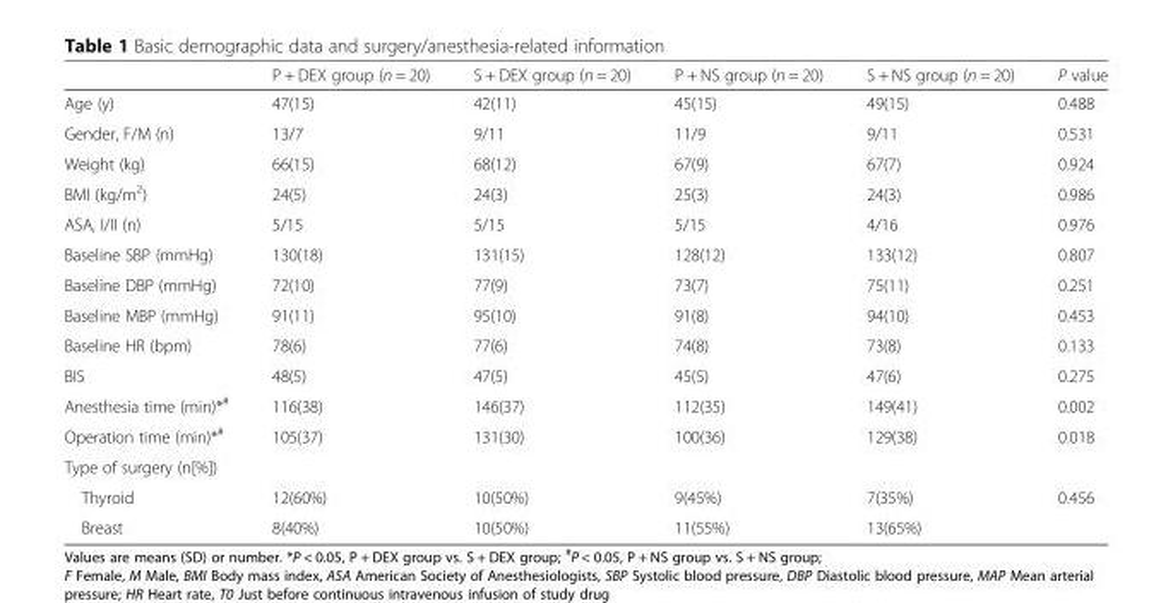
<table><thead><tr><td></td><td>P + DEX group (n = 20)</td><td>S + DEX group (n = 20)</td><td>P + NS group (n = 20)</td><td>S + NS group (n = 20)</td><td>P value</td></tr></thead><tbody><tr><td>Age (y)</td><td>47(15)</td><td>42(11)</td><td>45(15)</td><td>49(15)</td><td>0.488</td></tr><tr><td>Gender, F/M (n)</td><td>13/7</td><td>9/11</td><td>11/9</td><td>9/11</td><td>0.531</td></tr><tr><td>Weight (kg)</td><td>66(15)</td><td>68(12)</td><td>67(9)</td><td>67(7)</td><td>0.924</td></tr><tr><td>BMI (kg/m<sup>2</sup>)</td><td>24(5)</td><td>24(3)</td><td>25(3)</td><td>24(3)</td><td>0.986</td></tr><tr><td>ASA, I/II (n)</td><td>5/15</td><td>5/15</td><td>5/15</td><td>4/16</td><td>0.976</td></tr><tr><td>Baseline SBP (mmHg)</td><td>130(18)</td><td>131(15)</td><td>128(12)</td><td>133(12)</td><td>0.807</td></tr><tr><td>Baseline DBP (mmHg)</td><td>72(10)</td><td>77(9)</td><td>73(7)</td><td>75(11)</td><td>0.251</td></tr><tr><td>Baseline MBP (mmHg)</td><td>91(11)</td><td>95(10)</td><td>91(8)</td><td>94(10)</td><td>0.453</td></tr><tr><td>Baseline HR (bpm)</td><td>78(6)</td><td>77(6)</td><td>74(8)</td><td>73(8)</td><td>0.133</td></tr><tr><td>BIS</td><td>48(5)</td><td>47(5)</td><td>45(5)</td><td>47(6)</td><td>0.275</td></tr><tr><td>Anesthesia time (min)*<sup>#</sup></td><td>116(38)</td><td>146(37)</td><td>112(35)</td><td>149(41)</td><td>0.002</td></tr><tr><td>Operation time (min)*<sup>#</sup></td><td>105(37)</td><td>131(30)</td><td>100(36)</td><td>129(38)</td><td>0.018</td></tr><tr><td colspan="6">Type of surgery (n[%])</td></tr><tr><td>Thyroid</td><td>12(60%)</td><td>10(50%)</td><td>9(45%)</td><td>7(35%)</td><td rowspan="2">0.456</td></tr><tr><td>Breast</td><td>8(40%)</td><td>10(50%)</td><td>11(55%)</td><td>13(65%)</td></tr></tbody></table>